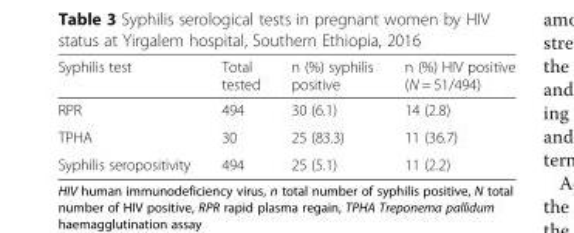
<table><thead><tr><td>Syphilis test</td><td>Total tested</td><td>n (%) syphilis positive</td><td>n (%) HIV positive (N = 51/494)</td></tr></thead><tbody><tr><td>RPR</td><td>494</td><td>30 (6.1)</td><td>14 (2.8)</td></tr><tr><td>TPHA</td><td>30</td><td>25 (83.3)</td><td>11 (36.7)</td></tr><tr><td>Syphilis seropositivity</td><td>494</td><td>25 (5.1)</td><td>11 (2.2)</td></tr></tbody></table>